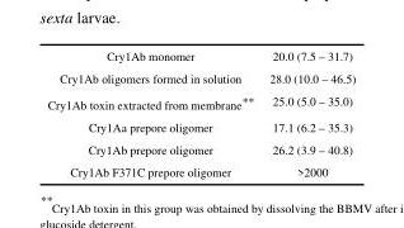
<table><tbody><tr><td>Cry1Ab monomer</td><td>20.0 (7.5 – 31.7)</td></tr><tr><td>Cry1Ab oligomers formed in solution</td><td>28.0 (10.0 – 46.5)</td></tr><tr><td>Cry1Ab toxin extracted from membrane**</td><td>25.0 (5.0 – 35.0)</td></tr><tr><td>Cry1Aa prepore oligomer</td><td>17.1 (6.2 – 35.3)</td></tr><tr><td>Cry1Ab prepore oligomer</td><td>26.2 (3.9 – 40.8)</td></tr><tr><td>Cry1Ab F371C prepore oligomer</td><td>&gt;2000</td></tr></tbody></table>